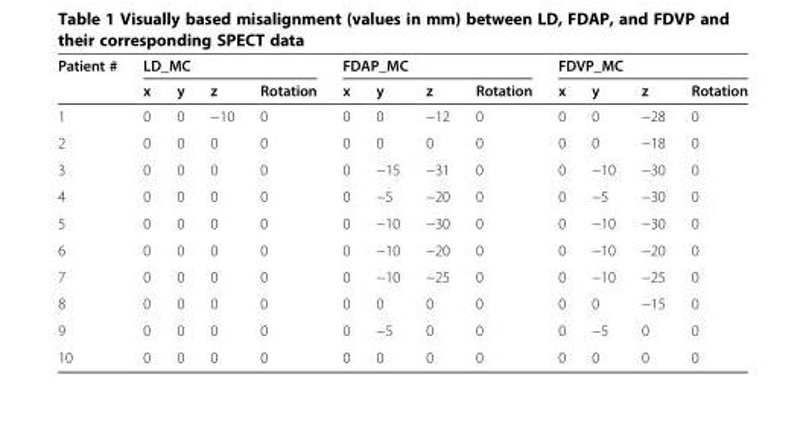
<table><thead><tr><td rowspan="2">Patient #</td><td colspan="4">LD_MC</td><td colspan="4">FDAP_MC</td><td colspan="4">FDVP_MC</td></tr><tr><td>x</td><td>y</td><td>z</td><td>Rotation</td><td>x</td><td>y</td><td>z</td><td>Rotation</td><td>x</td><td>y</td><td>z</td><td>Rotation</td></tr></thead><tbody><tr><td>1</td><td>0</td><td>0</td><td>−10</td><td>0</td><td>0</td><td>0</td><td>−12</td><td>0</td><td>0</td><td>0</td><td>−28</td><td>0</td></tr><tr><td>2</td><td>0</td><td>0</td><td>0</td><td>0</td><td>0</td><td>0</td><td>0</td><td>0</td><td>0</td><td>0</td><td>−18</td><td>0</td></tr><tr><td>3</td><td>0</td><td>0</td><td>0</td><td>0</td><td>0</td><td>−15</td><td>−31</td><td>0</td><td>0</td><td>−10</td><td>−30</td><td>0</td></tr><tr><td>4</td><td>0</td><td>0</td><td>0</td><td>0</td><td>0</td><td>−5</td><td>−20</td><td>0</td><td>0</td><td>−5</td><td>−30</td><td>0</td></tr><tr><td>5</td><td>0</td><td>0</td><td>0</td><td>0</td><td>0</td><td>−10</td><td>−30</td><td>0</td><td>0</td><td>−10</td><td>−30</td><td>0</td></tr><tr><td>6</td><td>0</td><td>0</td><td>0</td><td>0</td><td>0</td><td>−10</td><td>−20</td><td>0</td><td>0</td><td>−10</td><td>−20</td><td>0</td></tr><tr><td>7</td><td>0</td><td>0</td><td>0</td><td>0</td><td>0</td><td>−10</td><td>−25</td><td>0</td><td>0</td><td>−10</td><td>−25</td><td>0</td></tr><tr><td>8</td><td>0</td><td>0</td><td>0</td><td>0</td><td>0</td><td>0</td><td>0</td><td>0</td><td>0</td><td>0</td><td>−15</td><td>0</td></tr><tr><td>9</td><td>0</td><td>0</td><td>0</td><td>0</td><td>0</td><td>−5</td><td>0</td><td>0</td><td>0</td><td>−5</td><td>0</td><td>0</td></tr><tr><td>10</td><td>0</td><td>0</td><td>0</td><td>0</td><td>0</td><td>0</td><td>0</td><td>0</td><td>0</td><td>0</td><td>0</td><td>0</td></tr></tbody></table>